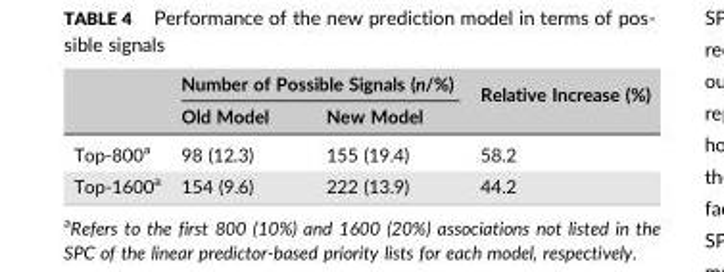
<table><thead><tr><td rowspan="2"></td><td colspan="2">Number of Possible Signals (n/%)</td><td rowspan="2">Relative Increase (%)</td></tr><tr><td>Old Model</td><td>New Model</td></tr></thead><tbody><tr><td>Top‐800<sup>a</sup></td><td>98 (12.3)</td><td>155 (19.4)</td><td>58.2</td></tr><tr><td>Top‐1600<sup>a</sup></td><td>154 (9.6)</td><td>222 (13.9)</td><td>44.2</td></tr></tbody></table>